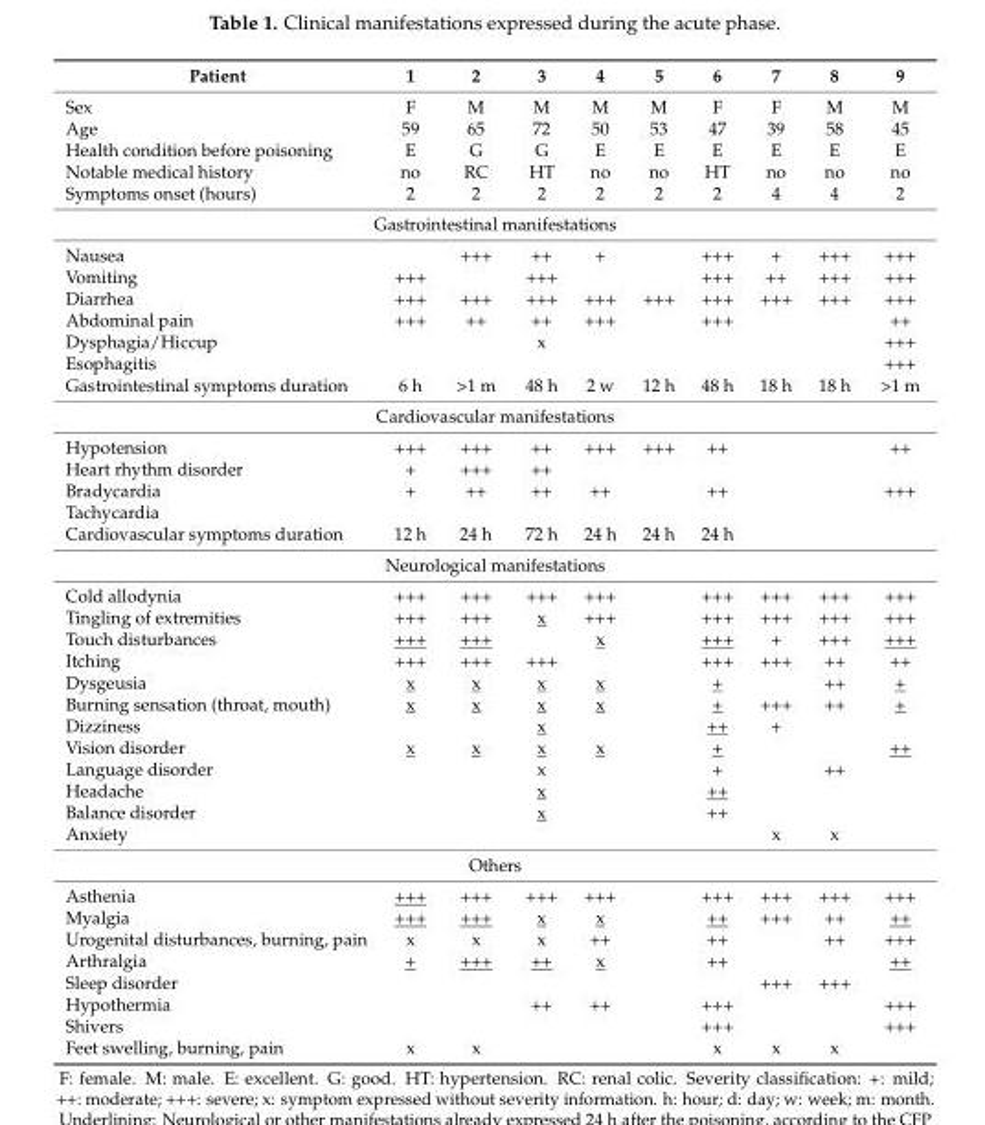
<table><thead><tr><td>Patient</td><td>1</td><td>2</td><td>3</td><td>4</td><td>5</td><td>6</td><td>7</td><td>8</td><td>9</td></tr></thead><tbody><tr><td>Sex</td><td>F</td><td>M</td><td>M</td><td>M</td><td>M</td><td>F</td><td>F</td><td>M</td><td>M</td></tr><tr><td>Age</td><td>59</td><td>65</td><td>72</td><td>50</td><td>53</td><td>47</td><td>39</td><td>58</td><td>45</td></tr><tr><td>Health condition before poisoning</td><td>E</td><td>G</td><td>G</td><td>E</td><td>E</td><td>E</td><td>E</td><td>E</td><td>E</td></tr><tr><td>Notable medical history</td><td>no</td><td>RC</td><td>HT</td><td>no</td><td>no</td><td>HT</td><td>no</td><td>no</td><td>no</td></tr><tr><td>Symptoms onset (hours)</td><td>2</td><td>2</td><td>2</td><td>2</td><td>2</td><td>2</td><td>4</td><td>4</td><td>2</td></tr><tr><td colspan="10">Gastrointestinal manifestations</td></tr><tr><td>Nausea</td><td></td><td>+++</td><td>++</td><td>+</td><td></td><td>+++</td><td>+</td><td>+++</td><td>+++</td></tr><tr><td>Vomiting</td><td>+++</td><td></td><td>+++</td><td></td><td></td><td>+++</td><td>++</td><td>+++</td><td>+++</td></tr><tr><td>Diarrhea</td><td>+++</td><td>+++</td><td>+++</td><td>+++</td><td>+++</td><td>+++</td><td>+++</td><td>+++</td><td>+++</td></tr><tr><td>Abdominal pain</td><td>+++</td><td>++</td><td>++</td><td>+++</td><td></td><td>+++</td><td></td><td></td><td>++</td></tr><tr><td>Dysphagia/Hiccup</td><td></td><td></td><td>x</td><td></td><td></td><td></td><td></td><td></td><td>+++</td></tr><tr><td>Esophagitis</td><td></td><td></td><td></td><td></td><td></td><td></td><td></td><td></td><td>+++</td></tr><tr><td>Gastrointestinal symptoms duration</td><td>6 h</td><td>&gt;1 m</td><td>48 h</td><td>2 w</td><td>12 h</td><td>48 h</td><td>18 h</td><td>18 h</td><td>&gt;1 m</td></tr><tr><td colspan="10">Cardiovascular manifestations</td></tr><tr><td>Hypotension</td><td>+++</td><td>+++</td><td>++</td><td>+++</td><td>+++</td><td>++</td><td></td><td></td><td>++</td></tr><tr><td>Heart rhythm disorder</td><td>+</td><td>+++</td><td>++</td><td></td><td></td><td></td><td></td><td></td><td></td></tr><tr><td>Bradycardia</td><td>+</td><td>++</td><td>++</td><td>++</td><td></td><td>++</td><td></td><td></td><td>+++</td></tr><tr><td colspan="10">Tachycardia</td></tr><tr><td>Cardiovascular symptoms duration</td><td>12 h</td><td>24 h</td><td>72 h</td><td>24 h</td><td>24 h</td><td>24 h</td><td></td><td></td><td></td></tr><tr><td colspan="10">Neurological manifestations</td></tr><tr><td>Cold allodynia</td><td>+++</td><td>+++</td><td>+++</td><td>+++</td><td></td><td>+++</td><td>+++</td><td>+++</td><td>+++</td></tr><tr><td>Tingling of extremities</td><td>+++</td><td>+++</td><td>x</td><td>+++</td><td></td><td>+++</td><td>+++</td><td>+++</td><td>+++</td></tr><tr><td>Touch disturbances</td><td>+++</td><td>+++</td><td></td><td>x</td><td></td><td>+++</td><td>+</td><td>+++</td><td>+++</td></tr><tr><td>Itching</td><td>+++</td><td>+++</td><td>+++</td><td></td><td></td><td>+++</td><td>+++</td><td>++</td><td>++</td></tr><tr><td>Dysgeusia</td><td>x</td><td>x</td><td>x</td><td>x</td><td></td><td>+</td><td></td><td>++</td><td>+</td></tr><tr><td>Burning sensation (throat, mouth)</td><td>x</td><td>x</td><td>x</td><td>x</td><td></td><td>+</td><td>+++</td><td>++</td><td>+</td></tr><tr><td>Dizziness</td><td></td><td></td><td>x</td><td></td><td></td><td>++</td><td>+</td><td></td><td></td></tr><tr><td>Vision disorder</td><td>x</td><td>x</td><td>x</td><td>x</td><td></td><td>+</td><td></td><td></td><td>++</td></tr><tr><td>Language disorder</td><td></td><td></td><td>x</td><td></td><td></td><td>+</td><td></td><td>++</td><td></td></tr><tr><td>Headache</td><td></td><td></td><td>x</td><td></td><td></td><td>++</td><td></td><td></td><td></td></tr><tr><td>Balance disorder</td><td></td><td></td><td>x</td><td></td><td></td><td>++</td><td></td><td></td><td></td></tr><tr><td>Anxiety</td><td></td><td></td><td></td><td></td><td></td><td></td><td>x</td><td>x</td><td></td></tr><tr><td colspan="10">Others</td></tr><tr><td>Asthenia</td><td>+++</td><td>+++</td><td>+++</td><td>+++</td><td></td><td>+++</td><td>+++</td><td>+++</td><td>+++</td></tr><tr><td>Myalgia</td><td>+++</td><td>+++</td><td>x</td><td>x</td><td></td><td>++</td><td>+++</td><td>++</td><td>++</td></tr><tr><td>Urogenital disturbances, burning, pain</td><td>x</td><td>x</td><td>x</td><td>++</td><td></td><td>++</td><td></td><td>++</td><td>+++</td></tr><tr><td>Arthralgia</td><td>+</td><td>+++</td><td>++</td><td>x</td><td></td><td>++</td><td></td><td></td><td>++</td></tr><tr><td>Sleep disorder</td><td></td><td></td><td></td><td></td><td></td><td></td><td>+++</td><td>+++</td><td></td></tr><tr><td>Hypothermia</td><td></td><td></td><td>++</td><td>++</td><td></td><td>+++</td><td></td><td></td><td>+++</td></tr><tr><td>Shivers</td><td></td><td></td><td></td><td></td><td></td><td>+++</td><td></td><td></td><td>+++</td></tr><tr><td>Feet swelling, burning, pain</td><td>x</td><td>x</td><td></td><td></td><td></td><td>x</td><td>x</td><td>x</td><td></td></tr></tbody></table>